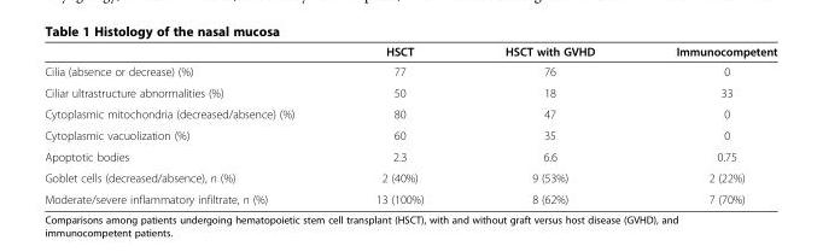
<table><thead><tr><td></td><td>HSCT</td><td>HSCT with GVHD</td><td>Immunocompetent</td></tr></thead><tbody><tr><td>Cilia (absence or decrease) (%)</td><td>77</td><td>76</td><td>0</td></tr><tr><td>Ciliar ultrastructure abnormalities (%)</td><td>50</td><td>18</td><td>33</td></tr><tr><td>Cytoplasmic mitochondria (decreased/absence) (%)</td><td>80</td><td>47</td><td>0</td></tr><tr><td>Cytoplasmic vacuolization (%)</td><td>60</td><td>35</td><td>0</td></tr><tr><td>Apoptotic bodies</td><td>2.3</td><td>6.6</td><td>0.75</td></tr><tr><td>Goblet cells (decreased/absence), n (%)</td><td>2 (40%)</td><td>9 (53%)</td><td>2 (22%)</td></tr><tr><td>Moderate/severe inflammatory infiltrate, n (%)</td><td>13 (100%)</td><td>8 (62%)</td><td>7 (70%)</td></tr></tbody></table>